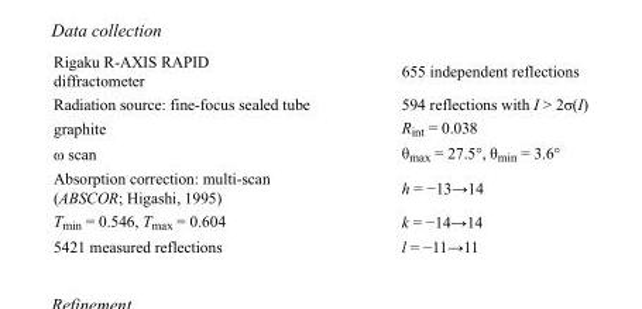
<table><tbody><tr><td>Rigaku R-AXIS RAPID diffractometer</td><td>655 independent reflections</td></tr><tr><td>Radiation source: fine-focus sealed tube</td><td>594 reflections with I &gt; 2σ(I)</td></tr><tr><td>graphite</td><td>R<sub>int</sub> = 0.038</td></tr><tr><td>ω scan</td><td>θ<sub>max</sub> = 27.5°, θ<sub>min</sub> = 3.6°</td></tr><tr><td>Absorption correction: multi-scan (ABSCOR; Higashi, 1995)</td><td>h = −13→14</td></tr><tr><td>T<sub>min</sub> = 0.546, T<sub>max</sub> = 0.604</td><td>k = −14→14</td></tr><tr><td>5421 measured reflections</td><td>l = −11→11</td></tr></tbody></table>